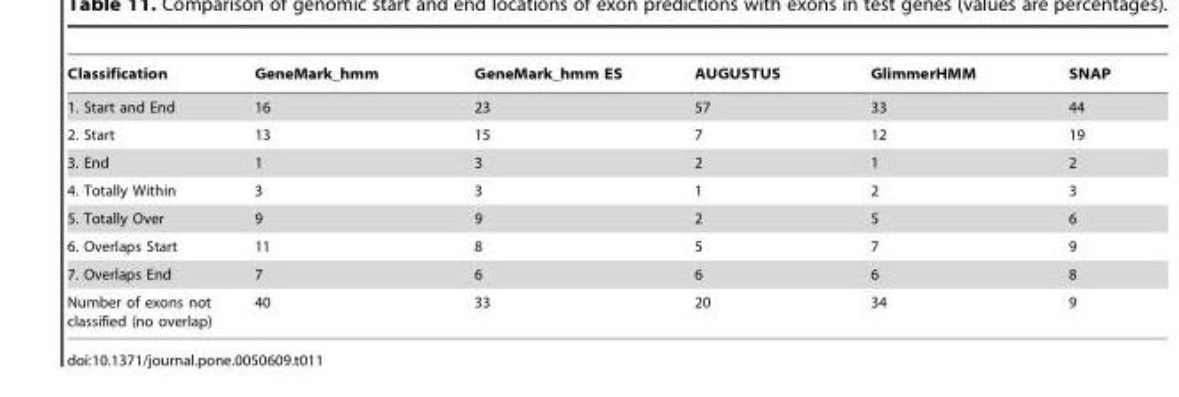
<table><thead><tr><td>Classification</td><td>GeneMark_hmm</td><td>GeneMark_hmm ES</td><td>AUGUSTUS</td><td>GlimmerHMM</td><td>SNAP</td></tr></thead><tbody><tr><td>1. Start and End</td><td>16</td><td>23</td><td>57</td><td>33</td><td>44</td></tr><tr><td>2. Start</td><td>13</td><td>15</td><td>7</td><td>12</td><td>19</td></tr><tr><td>3. End</td><td>1</td><td>3</td><td>2</td><td>1</td><td>2</td></tr><tr><td>4. Totally Within</td><td>3</td><td>3</td><td>1</td><td>2</td><td>3</td></tr><tr><td>5. Totally Over</td><td>9</td><td>9</td><td>2</td><td>5</td><td>6</td></tr><tr><td>6. Overlaps Start</td><td>11</td><td>8</td><td>5</td><td>7</td><td>9</td></tr><tr><td>7. Overlaps End</td><td>7</td><td>6</td><td>6</td><td>6</td><td>8</td></tr><tr><td>Number of exons not classified (no overlap)</td><td>40</td><td>33</td><td>20</td><td>34</td><td>9</td></tr></tbody></table>